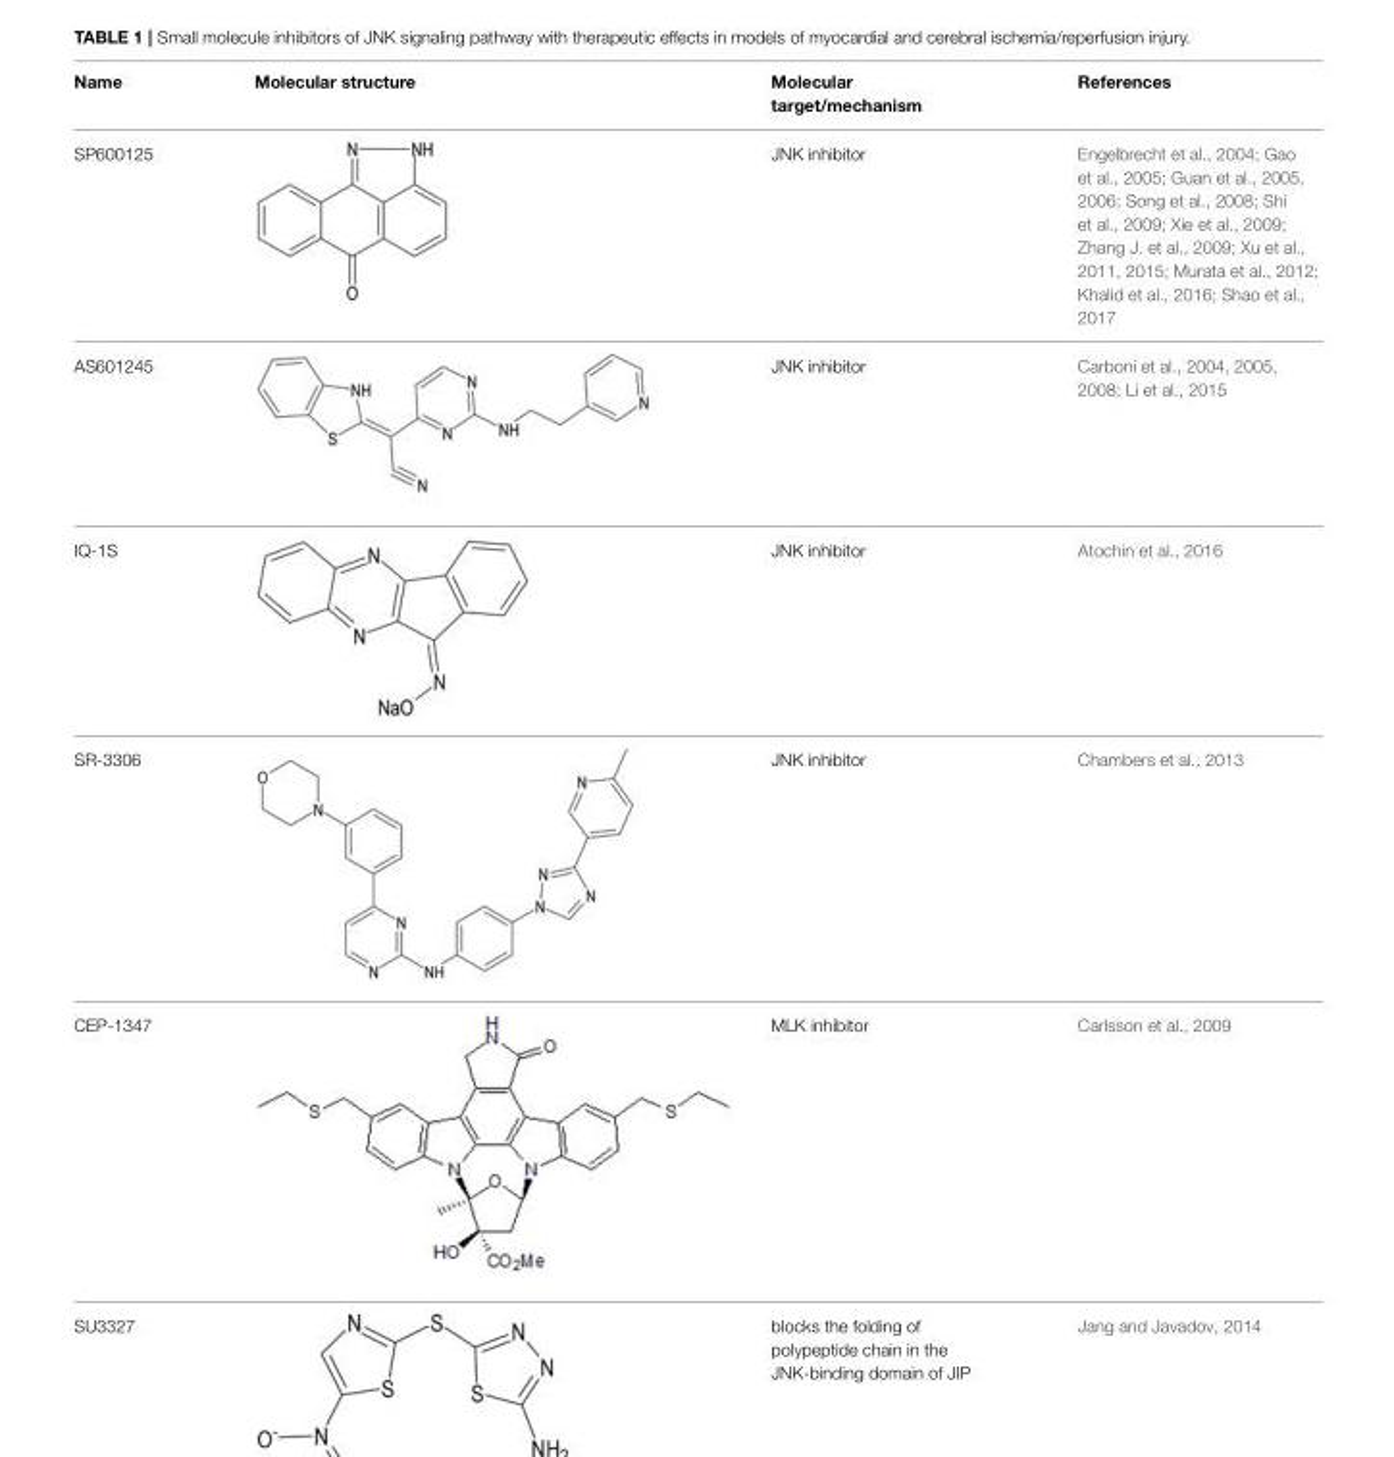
<table><thead><tr><td>Name</td><td>Molecular structure</td><td>Molecular target/mechanism</td><td>References</td></tr></thead><tbody><tr><td>SP600125</td><td></td><td>JNK inhibitor</td><td>Engelbrecht et al., 2004; Gao et al., 2005; Guan et al., 2005, 2006; Song et al., 2008; Shi et al., 2009; Xie et al., 2009; Zhang J. et al., 2009; Xu et al., 2011, 2015; Murata et al., 2012; Khalid et al., 2016; Shao et al., 2017</td></tr><tr><td>AS601245</td><td></td><td>JNK inhibitor</td><td>Carboni et al., 2004, 2005, 2008; Li et al., 2015</td></tr><tr><td>IQ-1S</td><td></td><td>JNK inhibitor</td><td>Atochin et al., 2016</td></tr><tr><td>SR-3306</td><td></td><td>JNK inhibitor</td><td>Chambers et al., 2013</td></tr><tr><td>CEP-1347</td><td></td><td>MLK inhibitor</td><td>Carlsson et al., 2009</td></tr><tr><td>SU3327</td><td></td><td>blocks the folding of polypeptide chain in the JNK-binding domain of JIP</td><td>Jang and Javadov, 2014</td></tr></tbody></table>